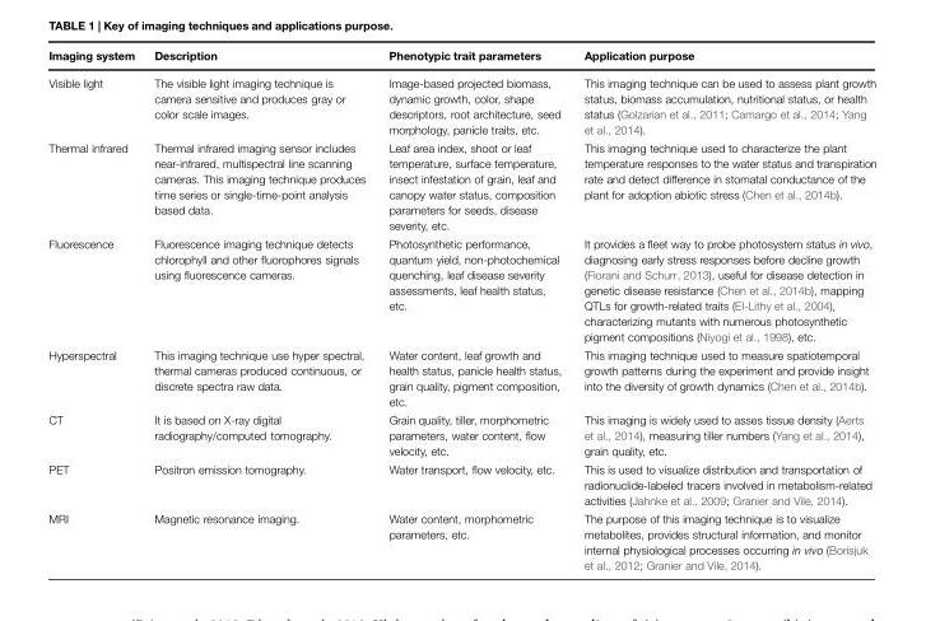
<table><thead><tr><td>Imaging system</td><td>Description</td><td>Phenotypic trait parameters</td><td>Application purpose</td></tr></thead><tbody><tr><td>Visible light</td><td>The visible light imaging technique is camera sensitive and produces gray or color scale images.</td><td>Image-based projected biomass, dynamic growth, color, shape descriptors, root architecture, seed morphology, panicle traits, etc.</td><td>This imaging technique can be used to assess plant growth status, biomass accumulation, nutritional status, or health status (Golzarian et al., 2011; Camargo et al., 2014; Yang et al., 2014).</td></tr><tr><td>Thermal infrared</td><td>Thermal infrared imaging sensor includes near-infrared, multispectral line scanning cameras. This imaging technique produces time series or single-time-point analysis based data.</td><td>Leaf area index, shoot or leaf temperature, surface temperature, insect infestation of grain, leaf and canopy water status, composition parameters for seeds, disease severity, etc.</td><td>This imaging technique used to characterize the plant temperature responses to the water status and transpiration rate and detect difference in stomatal conductance of the plant for adoption abiotic stress (Chen et al., 2014b).</td></tr><tr><td>Fluorescence</td><td>Fluorescence imaging technique detects chlorophyll and other fluorophores signals using fluorescence cameras.</td><td>Photosynthetic performance, quantum yield, non-photochemical quenching, leaf disease severity assessments, leaf health status, etc.</td><td>It provides a fleet way to probe photosystem status in vivo, diagnosing early stress responses before decline growth (Fiorani and Schurr, 2013), useful for disease detection in genetic disease resistance (Chen et al., 2014b), mapping QTLs for growth-related traits (El-Lithy et al., 2004), characterizing mutants with numerous photosynthetic pigment compositions (Niyogi et al., 1998), etc.</td></tr><tr><td>Hyperspectral</td><td>This imaging technique use hyper spectral, thermal cameras produced continuous, or discrete spectra raw data.</td><td>Water content, leaf growth and health status, panicle health status, grain quality, pigment composition, etc.</td><td>This imaging technique used to measure spatiotemporal growth patterns during the experiment and provide insight into the diversity of growth dynamics (Chen et al., 2014b).</td></tr><tr><td>CT</td><td>It is based on X-ray digital radiography/computed tomography.</td><td>Grain quality, tiller, morphometric parameters, water content, flow velocity, etc.</td><td>This imaging is widely used to asses tissue density (Aerts et al., 2014), measuring tiller numbers (Yang et al., 2014), grain quality, etc.</td></tr><tr><td>PET</td><td>Positron emission tomography.</td><td>Water transport, flow velocity, etc.</td><td>This is used to visualize distribution and transportation of radionuclide-labeled tracers involved in metabolism-related activities (Jahnke et al., 2009; Granier and Vile, 2014).</td></tr><tr><td>MRI</td><td>Magnetic resonance imaging.</td><td>Water content, morphometric parameters, etc.</td><td>The purpose of this imaging technique is to visualize metabolites, provides structural information, and monitor internal physiological processes occurring in vivo (Borisjuk et al., 2012; Granier and Vile, 2014).</td></tr></tbody></table>